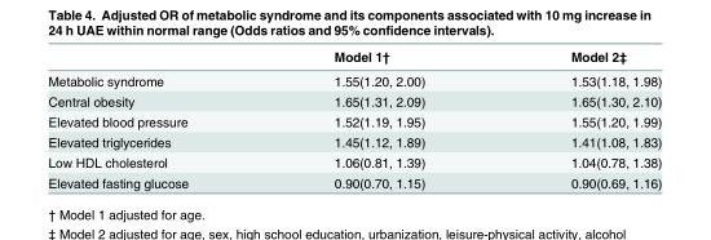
<table><thead><tr><td></td><td>Model 1†</td><td>Model 2‡</td></tr></thead><tbody><tr><td>Metabolic syndrome</td><td>1.55(1.20, 2.00)</td><td>1.53(1.18, 1.98)</td></tr><tr><td>Central obesity</td><td>1.65(1.31, 2.09)</td><td>1.65(1.30, 2.10)</td></tr><tr><td>Elevated blood pressure</td><td>1.52(1.19, 1.95)</td><td>1.55(1.20, 1.99)</td></tr><tr><td>Elevated triglycerides</td><td>1.45(1.12, 1.89)</td><td>1.41(1.08, 1.83)</td></tr><tr><td>Low HDL cholesterol</td><td>1.06(0.81, 1.39)</td><td>1.04(0.78, 1.38)</td></tr><tr><td>Elevated fasting glucose</td><td>0.90(0.70, 1.15)</td><td>0.90(0.69, 1.16)</td></tr></tbody></table>